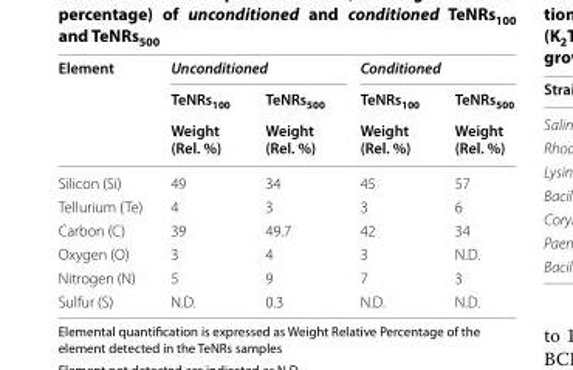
<table><thead><tr><td rowspan="3">Element</td><td colspan="2">Unconditioned</td><td colspan="2">Conditioned</td></tr><tr><td rowspan="2">TeNRs<sub>100</sub> Weight (Rel. %)</td><td rowspan="2">TeNRs<sub>500</sub> Weight (Rel. %)</td><td rowspan="2">TeNRs<sub>100</sub> Weight (Rel. %)</td><td rowspan="2">TeNRs<sub>500</sub> Weight (Rel. %)</td></tr><tr></tr></thead><tbody><tr><td>Silicon (Si)</td><td>49</td><td>34</td><td>45</td><td>57</td></tr><tr><td>Tellurium (Te)</td><td>4</td><td>3</td><td>3</td><td>6</td></tr><tr><td>Carbon (C)</td><td>39</td><td>49.7</td><td>42</td><td>34</td></tr><tr><td>Oxygen (O)</td><td>3</td><td>4</td><td>3</td><td>N.D.</td></tr><tr><td>Nitrogen (N)</td><td>5</td><td>9</td><td>7</td><td>3</td></tr><tr><td>Sulfur (S)</td><td>N.D.</td><td>0.3</td><td>N.D.</td><td>N.D.</td></tr></tbody></table>